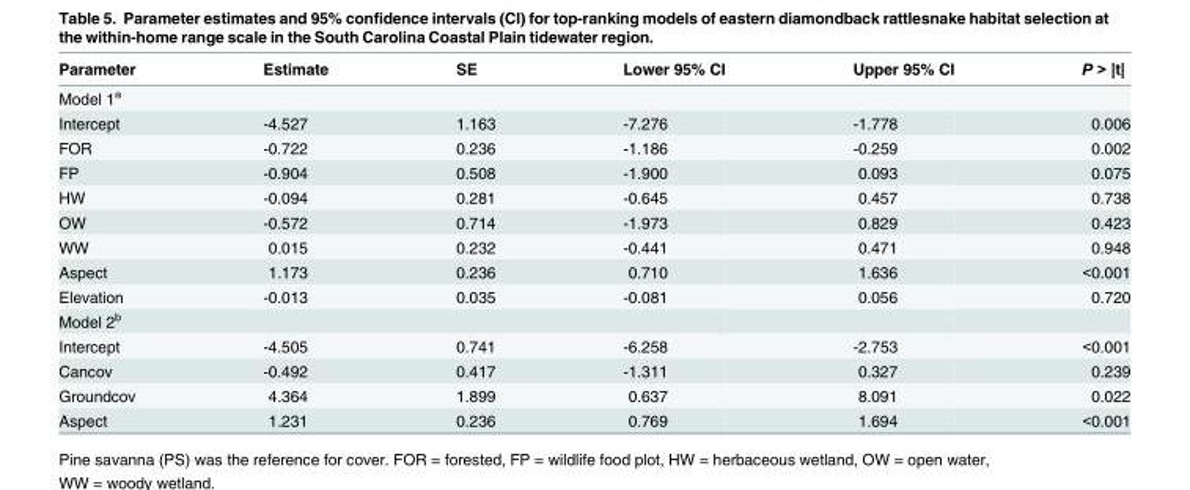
<table><thead><tr><td>Parameter</td><td>Estimate</td><td>SE</td><td>Lower 95% CI</td><td>Upper 95% CI</td><td>P &gt; |t|</td></tr></thead><tbody><tr><td colspan="6">Model 1<sup>a</sup></td></tr><tr><td>Intercept</td><td>-4.527</td><td>1.163</td><td>-7.276</td><td>-1.778</td><td>0.006</td></tr><tr><td>FOR</td><td>-0.722</td><td>0.236</td><td>-1.186</td><td>-0.259</td><td>0.002</td></tr><tr><td>FP</td><td>-0.904</td><td>0.508</td><td>-1.900</td><td>0.093</td><td>0.075</td></tr><tr><td>HW</td><td>-0.094</td><td>0.281</td><td>-0.645</td><td>0.457</td><td>0.738</td></tr><tr><td>OW</td><td>-0.572</td><td>0.714</td><td>-1.973</td><td>0.829</td><td>0.423</td></tr><tr><td>WW</td><td>0.015</td><td>0.232</td><td>-0.441</td><td>0.471</td><td>0.948</td></tr><tr><td>Aspect</td><td>1.173</td><td>0.236</td><td>0.710</td><td>1.636</td><td>&lt;0.001</td></tr><tr><td>Elevation</td><td>-0.013</td><td>0.035</td><td>-0.081</td><td>0.056</td><td>0.720</td></tr><tr><td colspan="6">Model 2<sup>b</sup></td></tr><tr><td>Intercept</td><td>-4.505</td><td>0.741</td><td>-6.258</td><td>-2.753</td><td>&lt;0.001</td></tr><tr><td>Cancov</td><td>-0.492</td><td>0.417</td><td>-1.311</td><td>0.327</td><td>0.239</td></tr><tr><td>Groundcov</td><td>4.364</td><td>1.899</td><td>0.637</td><td>8.091</td><td>0.022</td></tr><tr><td>Aspect</td><td>1.231</td><td>0.236</td><td>0.769</td><td>1.694</td><td>&lt;0.001</td></tr></tbody></table>